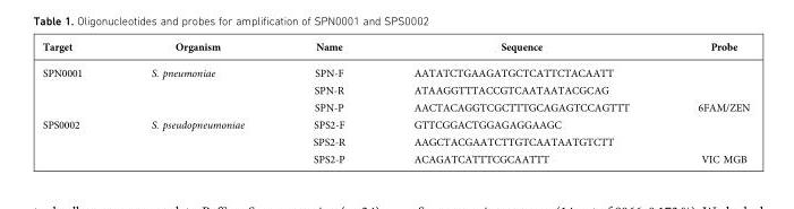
<table><thead><tr><td>Target</td><td>Organism</td><td>Name</td><td>Sequence</td><td>Probe</td></tr></thead><tbody><tr><td rowspan="3">SPN0001</td><td>S. pneumoniae</td><td>SPN-F</td><td>AATATCTGAAGATGCTCATTCTACAATT</td><td></td></tr><tr><td></td><td>SPN-R</td><td>ATAAGGTTTACCGTCAATAATACGCAG</td><td></td></tr><tr><td></td><td>SPN-P</td><td>AACTACAGGTCGCTTTGCAGAGTCCAGTTT</td><td>6FAM/ZEN</td></tr><tr><td rowspan="3">SPS0002</td><td>S. pseudopneumoniae</td><td>SPS2-F</td><td>GTTCGGACTGGAGAGGAAGC</td><td></td></tr><tr><td></td><td>SPS2-R</td><td>AAGCTACGAATCTTGTCAATAATGTCTT</td><td></td></tr><tr><td></td><td>SPS2-P</td><td>ACAGATCATTTCGCAATTT</td><td>VIC MGB</td></tr></tbody></table>